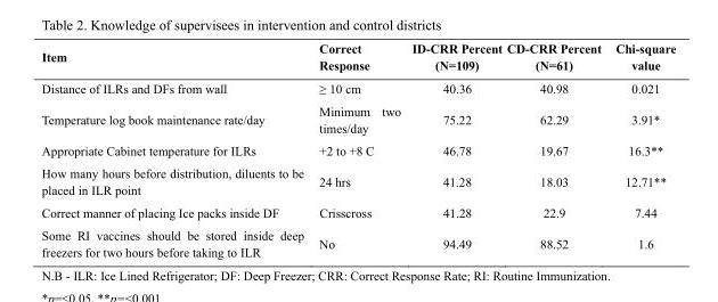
<table><thead><tr><td>Item</td><td>Correct Response</td><td>ID-CRR Percent (N=109)</td><td>CD-CRR Percent (N=61)</td><td>Chi-square value</td></tr></thead><tbody><tr><td>Distance of ILRs and DFs from wall</td><td>≥ 10 cm</td><td>40.36</td><td>40.98</td><td>0.021</td></tr><tr><td>Temperature log book maintenance rate/day</td><td>Minimum two times/day</td><td>75.22</td><td>62.29</td><td>3.91*</td></tr><tr><td>Appropriate Cabinet temperature for ILRs</td><td>+2 to +8 C</td><td>46.78</td><td>19.67</td><td>16.3**</td></tr><tr><td>How many hours before distribution, diluents to be placed in ILR point</td><td>24 hrs</td><td>41.28</td><td>18.03</td><td>12.71**</td></tr><tr><td>Correct manner of placing Ice packs inside DF</td><td>Crisscross</td><td>41.28</td><td>22.9</td><td>7.44</td></tr><tr><td>Some RI vaccines should be stored inside deep freezers for two hours before taking to ILR</td><td>No</td><td>94.49</td><td>88.52</td><td>1.6</td></tr></tbody></table>